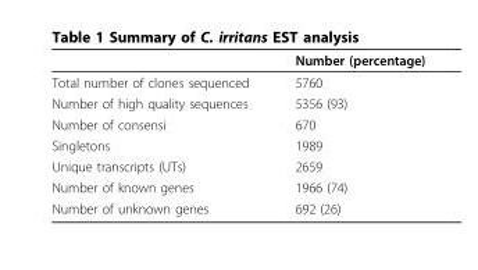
<table><thead><tr><td></td><td>Number (percentage)</td></tr></thead><tbody><tr><td>Total number of clones sequenced</td><td>5760</td></tr><tr><td>Number of high quality sequences</td><td>5356 (93)</td></tr><tr><td>Number of consensi</td><td>670</td></tr><tr><td>Singletons</td><td>1989</td></tr><tr><td>Unique transcripts (UTs)</td><td>2659</td></tr><tr><td>Number of known genes</td><td>1966 (74)</td></tr><tr><td>Number of unknown genes</td><td>692 (26)</td></tr></tbody></table>